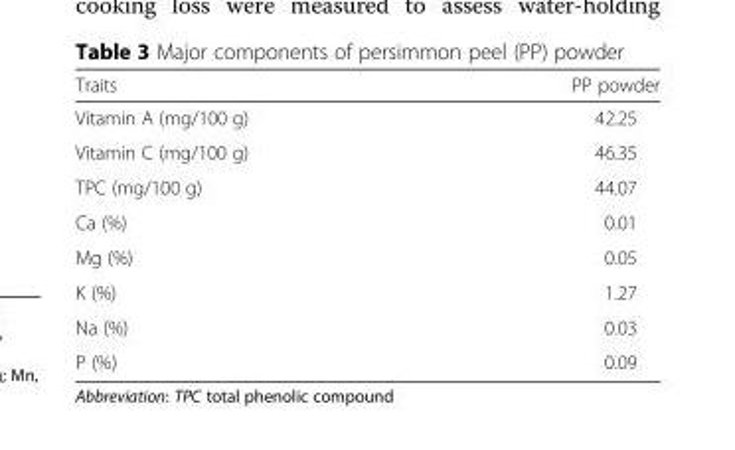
<table><thead><tr><td>Traits</td><td>PP powder</td></tr></thead><tbody><tr><td>Vitamin A (mg/100 g)</td><td>42.25</td></tr><tr><td>Vitamin C (mg/100 g)</td><td>46.35</td></tr><tr><td>TPC (mg/100 g)</td><td>44.07</td></tr><tr><td>Ca (%)</td><td>0.01</td></tr><tr><td>Mg (%)</td><td>0.05</td></tr><tr><td>K (%)</td><td>1.27</td></tr><tr><td>Na (%)</td><td>0.03</td></tr><tr><td>P (%)</td><td>0.09</td></tr></tbody></table>